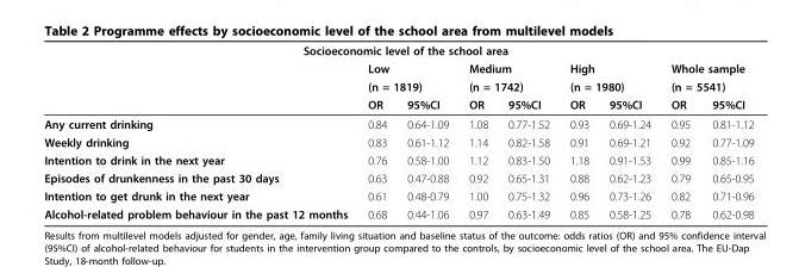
<table><thead><tr><td colspan="9">Socioeconomic level of the school area</td></tr><tr><td rowspan="3"></td><td rowspan="2" colspan="2">Low (n = 1819)</td><td rowspan="2" colspan="2">Medium (n = 1742)</td><td rowspan="2" colspan="2">High (n = 1980)</td><td rowspan="2" colspan="2">Whole sample (n = 5541)</td></tr><tr></tr><tr><td>OR</td><td>95%CI</td><td>OR</td><td>95%CI</td><td>OR</td><td>95%CI</td><td>OR</td><td>95%CI</td></tr></thead><tbody><tr><td>Any current drinking</td><td>0.84</td><td>0.64-1.09</td><td>1.08</td><td>0.77-1.52</td><td>0.93</td><td>0.69-1.24</td><td>0.95</td><td>0.81-1.12</td></tr><tr><td>Weekly drinking</td><td>0.83</td><td>0.61-1.12</td><td>1.14</td><td>0.82-1.58</td><td>0.91</td><td>0.69-1.21</td><td>0.92</td><td>0.77-1.09</td></tr><tr><td>Intention to drink in the next year</td><td>0.76</td><td>0.58-1.00</td><td>1.12</td><td>0.83-1.50</td><td>1.18</td><td>0.91-1.53</td><td>0.99</td><td>0.85-1.16</td></tr><tr><td>Episodes of drunkenness in the past 30 days</td><td>0.63</td><td>0.47-0.88</td><td>0.92</td><td>0.65-1.31</td><td>0.88</td><td>0.62-1.23</td><td>0.79</td><td>0.65-0.95</td></tr><tr><td>Intention to get drunk in the next year</td><td>0.61</td><td>0.48-0.79</td><td>1.00</td><td>0.75-1.32</td><td>0.96</td><td>0.73-1.26</td><td>0.82</td><td>0.71-0.96</td></tr><tr><td>Alcohol-related problem behaviour in the past 12 months</td><td>0.68</td><td>0.44-1.06</td><td>0.97</td><td>0.63-1.49</td><td>0.85</td><td>0.58-1.25</td><td>0.78</td><td>0.62-0.98</td></tr></tbody></table>